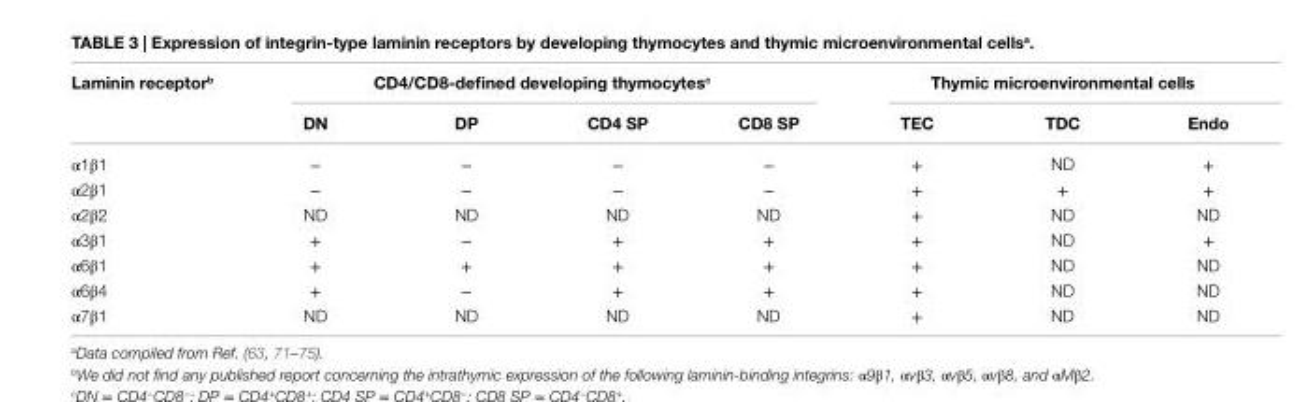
<table><thead><tr><td rowspan="2">Laminin receptor<sup>b</sup></td><td colspan="4">CD4/CD8-defined developing thymocytes<sup>c</sup></td><td colspan="3">Thymic microenvironmental cells</td></tr><tr><td>DN</td><td>DP</td><td>CD4 SP</td><td>CD8 SP</td><td>TeC</td><td>TDC</td><td>endo</td></tr></thead><tbody><tr><td>α1β1</td><td>−</td><td>−</td><td>−</td><td>−</td><td>+</td><td>ND</td><td>+</td></tr><tr><td>α2β1</td><td>−</td><td>−</td><td>−</td><td>−</td><td>+</td><td>+</td><td>+</td></tr><tr><td>α2β2</td><td>ND</td><td>ND</td><td>ND</td><td>ND</td><td>+</td><td>ND</td><td>ND</td></tr><tr><td>α3β1</td><td>+</td><td>−</td><td>+</td><td>+</td><td>+</td><td>ND</td><td>+</td></tr><tr><td>α6β1</td><td>+</td><td>+</td><td>+</td><td>+</td><td>+</td><td>ND</td><td>ND</td></tr><tr><td>α6β4</td><td>+</td><td>−</td><td>+</td><td>+</td><td>+</td><td>ND</td><td>ND</td></tr><tr><td>α7β1</td><td>ND</td><td>ND</td><td>ND</td><td>ND</td><td>+</td><td>ND</td><td>ND</td></tr></tbody></table>